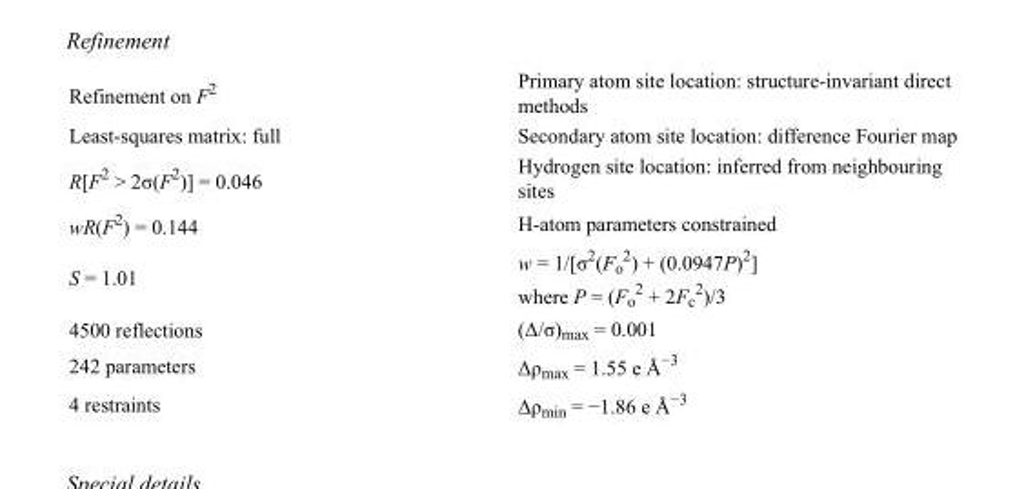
<table><tbody><tr><td>Refinement on F<sup>2</sup></td><td>Primary atom site location: structure-invariant direct methods</td></tr><tr><td>Least-squares matrix: full</td><td>Secondary atom site location: difference Fourier map</td></tr><tr><td>R[F<sup>2</sup> &gt; 2σ(F<sup>2</sup>)] = 0.046</td><td>Hydrogen site location: inferred from neighbouring sites</td></tr><tr><td>wR(F<sup>2</sup>) = 0.144</td><td>H-atom parameters constrained</td></tr><tr><td>S = 1.01</td><td>w = 1/[σ<sup>2</sup>(F<sub>o</sub> <sup>2</sup>) + (0.0947P)<sup>2</sup>] where P = (F<sub>o</sub> <sup>2</sup> + 2F<sub>c</sub> <sup>2</sup>)/3</td></tr><tr><td>4500 reflections</td><td>(Δ/σ)<sub>max</sub> = 0.001</td></tr><tr><td>242 parameters</td><td>Δρ<sub>max</sub> = 1.55 e Å<sup>−3</sup></td></tr><tr><td>4 restraints</td><td>Δρ<sub>min</sub> = −1.86 e Å<sup>−3</sup></td></tr></tbody></table>